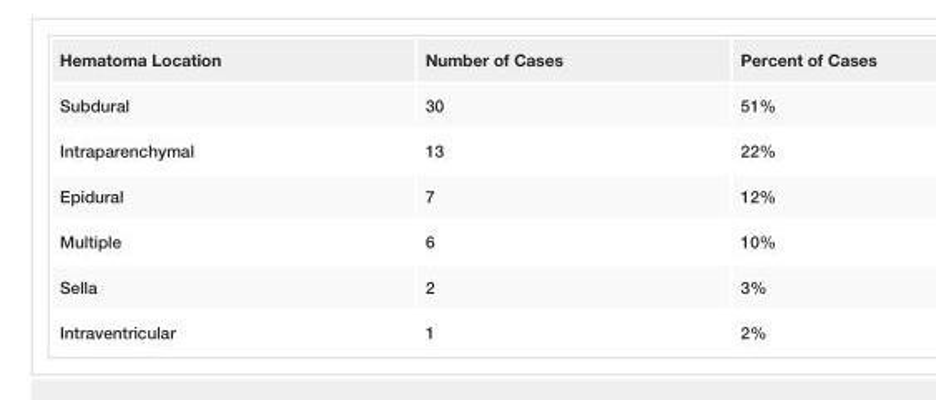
<table><tbody><tr><td>Hematoma Location</td><td>Number of Cases</td><td>Percent of Cases</td></tr><tr><td>Subdural</td><td>30</td><td>51%</td></tr><tr><td>Intraparenchymal</td><td>13</td><td>22%</td></tr><tr><td>Epidural</td><td>7</td><td>12%</td></tr><tr><td>Multiple</td><td>6</td><td>10%</td></tr><tr><td>Sella</td><td>2</td><td>3%</td></tr><tr><td>Intraventricular</td><td>1</td><td>2%</td></tr></tbody></table>